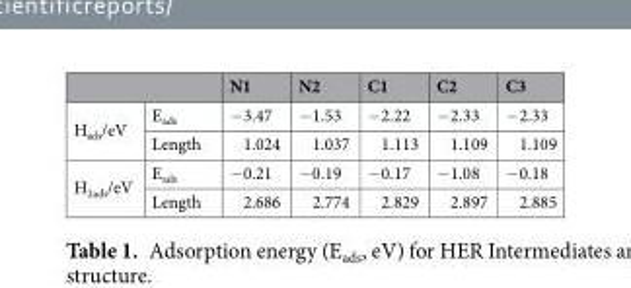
<table><thead><tr><td></td><td></td><td>N1</td><td>N2</td><td>C1</td><td>C2</td><td>C3</td></tr></thead><tbody><tr><td rowspan="2">H<sub>ads</sub>/eV</td><td>E<sub>ads</sub></td><td>−3.47</td><td>−1.53</td><td>−2.22</td><td>−2.33</td><td>−2.33</td></tr><tr><td>Length</td><td>1.024</td><td>1.037</td><td>1.113</td><td>1.109</td><td>1.109</td></tr><tr><td rowspan="2">H<sub>2ads</sub>/eV</td><td>E<sub>ads</sub></td><td>−0.21</td><td>−0.19</td><td>−0.17</td><td>−1.08</td><td>−0.18</td></tr><tr><td>Length</td><td>2.686</td><td>2.774</td><td>2.829</td><td>2.897</td><td>2.885</td></tr></tbody></table>